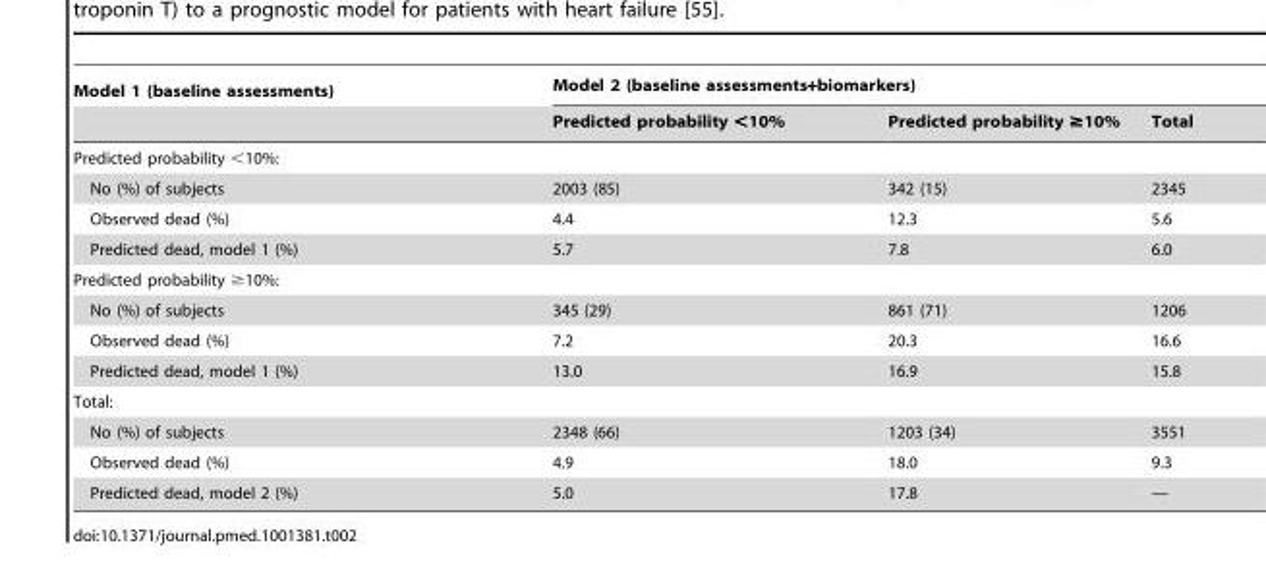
<table><thead><tr><td rowspan="2">Model 1 (baseline assessments)</td><td colspan="3">Model 2 (baseline assessments+biomarkers)</td></tr><tr><td>Predicted probability &lt;10%</td><td>Predicted probability ≥10%</td><td>Total</td></tr></thead><tbody><tr><td colspan="4">Predicted probability &lt;10%:</td></tr><tr><td>No (%) of subjects</td><td>2003 (85)</td><td>342 (15)</td><td>2345</td></tr><tr><td>Observed dead (%)</td><td>4.4</td><td>12.3</td><td>5.6</td></tr><tr><td>Predicted dead, model 1 (%)</td><td>5.7</td><td>7.8</td><td>6.0</td></tr><tr><td colspan="4">Predicted probability ≥10%:</td></tr><tr><td>No (%) of subjects</td><td>345 (29)</td><td>861 (71)</td><td>1206</td></tr><tr><td>Observed dead (%)</td><td>7.2</td><td>20.3</td><td>16.6</td></tr><tr><td>Predicted dead, model 1 (%)</td><td>13.0</td><td>16.9</td><td>15.8</td></tr><tr><td colspan="4">Total:</td></tr><tr><td>No (%) of subjects</td><td>2348 (66)</td><td>1203 (34)</td><td>3551</td></tr><tr><td>Observed dead (%)</td><td>4.9</td><td>18.0</td><td>9.3</td></tr><tr><td>Predicted dead, model 2 (%)</td><td>5.0</td><td>17.8</td><td>—</td></tr></tbody></table>